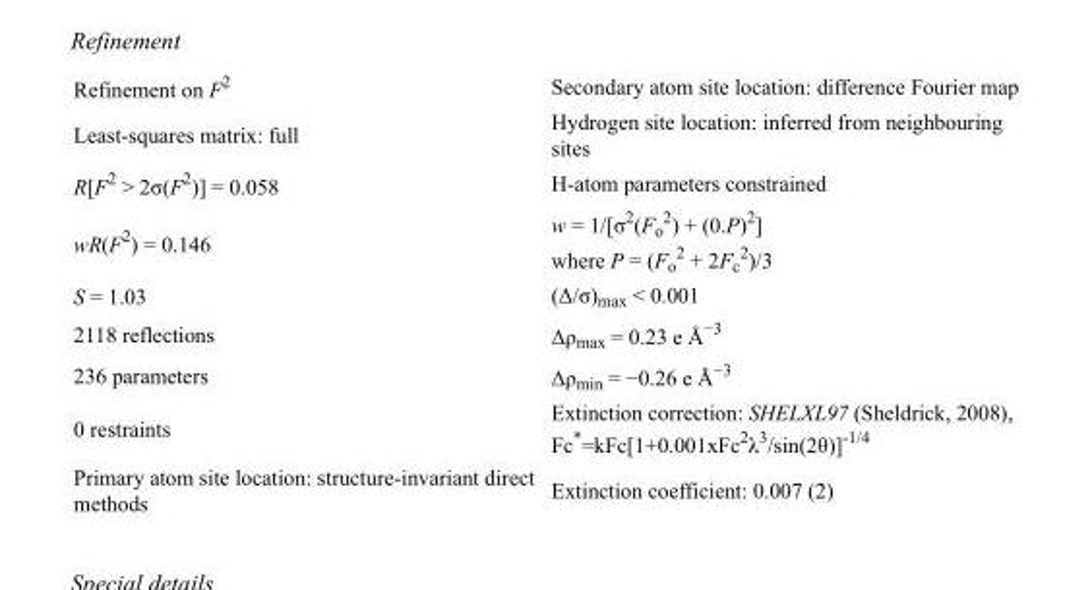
<table><tbody><tr><td>Refinement on F<sup>2</sup></td><td>Secondary atom site location: difference Fourier map</td></tr><tr><td>Least-squares matrix: full</td><td>Hydrogen site location: inferred from neighbouring sites</td></tr><tr><td>R[F<sup>2</sup> &gt; 2σ(F<sup>2</sup>)] = 0.058</td><td>H-atom parameters constrained</td></tr><tr><td>wR(F<sup>2</sup>) = 0.146</td><td>w = 1/[σ<sup>2</sup>(F<sub>o</sub> <sup>2</sup>) + (0.P)<sup>2</sup>] where P = (F<sub>o</sub> <sup>2</sup> + 2F<sub>c</sub> <sup>2</sup>)/3</td></tr><tr><td>S = 1.03</td><td>(Δ/σ)<sub>max</sub> &lt; 0.001</td></tr><tr><td>2118 reflections</td><td>Δρ<sub>max</sub> = 0.23 e Å<sup>−3</sup></td></tr><tr><td>236 parameters</td><td>Δρ<sub>min</sub> = −0.26 e Å<sup>−3</sup></td></tr><tr><td>0 restraints</td><td>Extinction correction: SHELXL97 (Sheldrick, 2008), Fc*=kFc[1+0.001xFc<sup>2</sup>λ<sup>3</sup>/sin(2θ)]<sup>-1/4</sup></td></tr><tr><td>Primary atom site location: structure-invariant direct methods</td><td>Extinction coefficient: 0.007 (2)</td></tr></tbody></table>